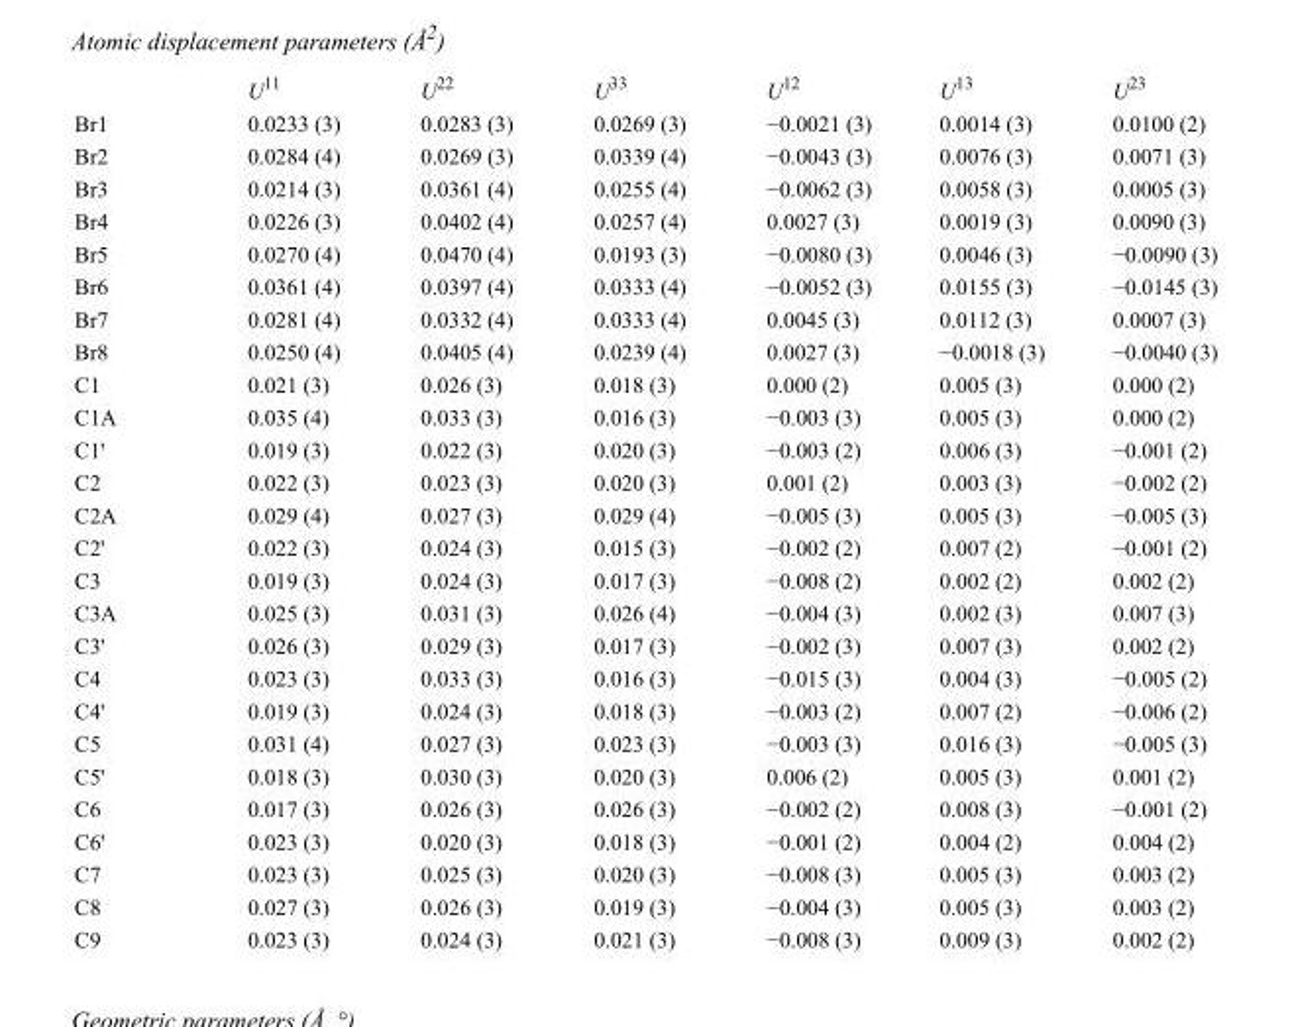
<table><thead><tr><td></td><td>U<sup>11</sup></td><td>U<sup>22</sup></td><td>U<sup>33</sup></td><td>U<sup>12</sup></td><td>U<sup>13</sup></td><td>U<sup>23</sup></td></tr></thead><tbody><tr><td>Br1</td><td>0.0233 (3)</td><td>0.0283 (3)</td><td>0.0269 (3)</td><td>−0.0021 (3)</td><td>0.0014 (3)</td><td>0.0100 (2)</td></tr><tr><td>Br2</td><td>0.0284 (4)</td><td>0.0269 (3)</td><td>0.0339 (4)</td><td>−0.0043 (3)</td><td>0.0076 (3)</td><td>0.0071 (3)</td></tr><tr><td>Br3</td><td>0.0214 (3)</td><td>0.0361 (4)</td><td>0.0255 (4)</td><td>−0.0062 (3)</td><td>0.0058 (3)</td><td>0.0005 (3)</td></tr><tr><td>Br4</td><td>0.0226 (3)</td><td>0.0402 (4)</td><td>0.0257 (4)</td><td>0.0027 (3)</td><td>0.0019 (3)</td><td>0.0090 (3)</td></tr><tr><td>Br5</td><td>0.0270 (4)</td><td>0.0470 (4)</td><td>0.0193 (3)</td><td>−0.0080 (3)</td><td>0.0046 (3)</td><td>−0.0090 (3)</td></tr><tr><td>Br6</td><td>0.0361 (4)</td><td>0.0397 (4)</td><td>0.0333 (4)</td><td>−0.0052 (3)</td><td>0.0155 (3)</td><td>−0.0145 (3)</td></tr><tr><td>Br7</td><td>0.0281 (4)</td><td>0.0332 (4)</td><td>0.0333 (4)</td><td>0.0045 (3)</td><td>0.0112 (3)</td><td>0.0007 (3)</td></tr><tr><td>Br8</td><td>0.0250 (4)</td><td>0.0405 (4)</td><td>0.0239 (4)</td><td>0.0027 (3)</td><td>−0.0018 (3)</td><td>−0.0040 (3)</td></tr><tr><td>C1</td><td>0.021 (3)</td><td>0.026 (3)</td><td>0.018 (3)</td><td>0.000 (2)</td><td>0.005 (3)</td><td>0.000 (2)</td></tr><tr><td>C1A</td><td>0.035 (4)</td><td>0.033 (3)</td><td>0.016 (3)</td><td>−0.003 (3)</td><td>0.005 (3)</td><td>0.000 (2)</td></tr><tr><td>C1&#x27;</td><td>0.019 (3)</td><td>0.022 (3)</td><td>0.020 (3)</td><td>−0.003 (2)</td><td>0.006 (3)</td><td>−0.001 (2)</td></tr><tr><td>C2</td><td>0.022 (3)</td><td>0.023 (3)</td><td>0.020 (3)</td><td>0.001 (2)</td><td>0.003 (3)</td><td>−0.002 (2)</td></tr><tr><td>C2A</td><td>0.029 (4)</td><td>0.027 (3)</td><td>0.029 (4)</td><td>−0.005 (3)</td><td>0.005 (3)</td><td>−0.005 (3)</td></tr><tr><td>C2&#x27;</td><td>0.022 (3)</td><td>0.024 (3)</td><td>0.015 (3)</td><td>−0.002 (2)</td><td>0.007 (2)</td><td>−0.001 (2)</td></tr><tr><td>C3</td><td>0.019 (3)</td><td>0.024 (3)</td><td>0.017 (3)</td><td>−0.008 (2)</td><td>0.002 (2)</td><td>0.002 (2)</td></tr><tr><td>C3A</td><td>0.025 (3)</td><td>0.031 (3)</td><td>0.026 (4)</td><td>−0.004 (3)</td><td>0.002 (3)</td><td>0.007 (3)</td></tr><tr><td>C3&#x27;</td><td>0.026 (3)</td><td>0.029 (3)</td><td>0.017 (3)</td><td>−0.002 (3)</td><td>0.007 (3)</td><td>0.002 (2)</td></tr><tr><td>C4</td><td>0.023 (3)</td><td>0.033 (3)</td><td>0.016 (3)</td><td>−0.015 (3)</td><td>0.004 (3)</td><td>−0.005 (2)</td></tr><tr><td>C4&#x27;</td><td>0.019 (3)</td><td>0.024 (3)</td><td>0.018 (3)</td><td>−0.003 (2)</td><td>0.007 (2)</td><td>−0.006 (2)</td></tr><tr><td>C5</td><td>0.031 (4)</td><td>0.027 (3)</td><td>0.023 (3)</td><td>−0.003 (3)</td><td>0.016 (3)</td><td>−0.005 (3)</td></tr><tr><td>C5&#x27;</td><td>0.018 (3)</td><td>0.030 (3)</td><td>0.020 (3)</td><td>0.006 (2)</td><td>0.005 (3)</td><td>0.001 (2)</td></tr><tr><td>C6</td><td>0.017 (3)</td><td>0.026 (3)</td><td>0.026 (3)</td><td>−0.002 (2)</td><td>0.008 (3)</td><td>−0.001 (2)</td></tr><tr><td>C6&#x27;</td><td>0.023 (3)</td><td>0.020 (3)</td><td>0.018 (3)</td><td>−0.001 (2)</td><td>0.004 (2)</td><td>0.004 (2)</td></tr><tr><td>C7</td><td>0.023 (3)</td><td>0.025 (3)</td><td>0.020 (3)</td><td>−0.008 (3)</td><td>0.005 (3)</td><td>0.003 (2)</td></tr><tr><td>C8</td><td>0.027 (3)</td><td>0.026 (3)</td><td>0.019 (3)</td><td>−0.004 (3)</td><td>0.005 (3)</td><td>0.003 (2)</td></tr><tr><td>C9</td><td>0.023 (3)</td><td>0.024 (3)</td><td>0.021 (3)</td><td>−0.008 (3)</td><td>0.009 (3)</td><td>0.002 (2)</td></tr></tbody></table>